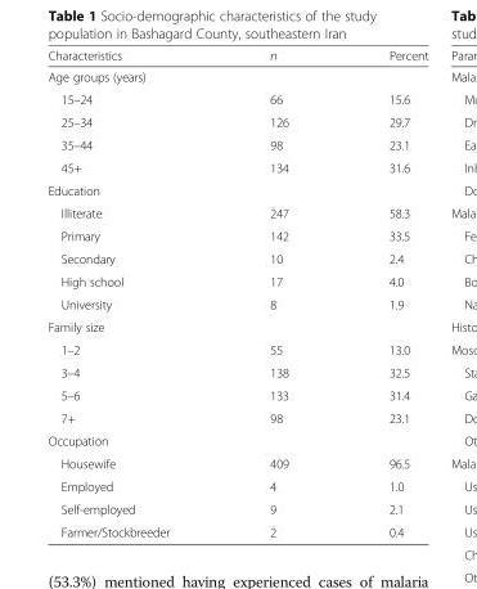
<table><thead><tr><td>Characteristics</td><td>n</td><td>Percent</td></tr></thead><tbody><tr><td colspan="3">Age groups (years)</td></tr><tr><td>15–24</td><td>66</td><td>15.6</td></tr><tr><td>25–34</td><td>126</td><td>29.7</td></tr><tr><td>35–44</td><td>98</td><td>23.1</td></tr><tr><td>45+</td><td>134</td><td>31.6</td></tr><tr><td colspan="3">Education</td></tr><tr><td>Illiterate</td><td>247</td><td>58.3</td></tr><tr><td>Primary</td><td>142</td><td>33.5</td></tr><tr><td>Secondary</td><td>10</td><td>2.4</td></tr><tr><td>High school</td><td>17</td><td>4.0</td></tr><tr><td>University</td><td>8</td><td>1.9</td></tr><tr><td colspan="3">Family size</td></tr><tr><td>1–2</td><td>55</td><td>13.0</td></tr><tr><td>3–4</td><td>138</td><td>32.5</td></tr><tr><td>5–6</td><td>133</td><td>31.4</td></tr><tr><td>7+</td><td>98</td><td>23.1</td></tr><tr><td colspan="3">Occupation</td></tr><tr><td>Housewife</td><td>409</td><td>96.5</td></tr><tr><td>Employed</td><td>4</td><td>1.0</td></tr><tr><td>Self-employed</td><td>9</td><td>2.1</td></tr><tr><td>Farmer/Stockbreeder</td><td>2</td><td>0.4</td></tr></tbody></table>